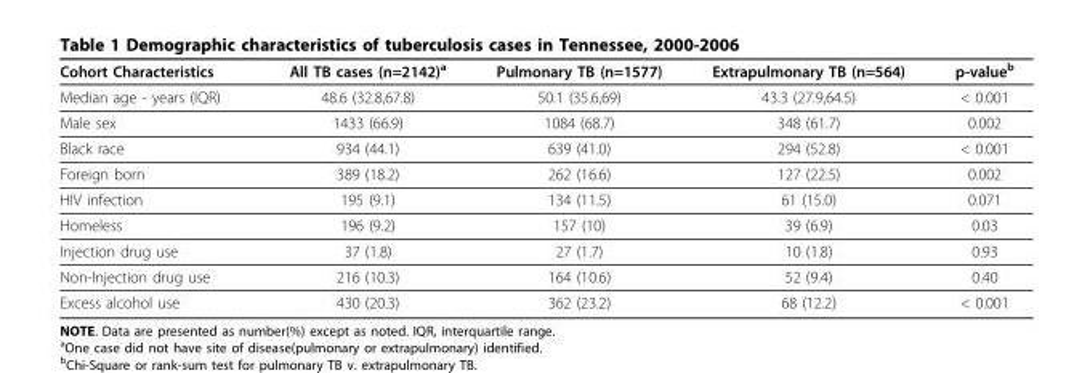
<table><thead><tr><td>Cohort Characteristics</td><td>All TB cases (n=2142)<sup>a</sup></td><td>Pulmonary TB (n=1577)</td><td>Extrapulmonary TB (n=564)</td><td>p-value<sup>b</sup></td></tr></thead><tbody><tr><td>Median age - years (IQR)</td><td>48.6 (32.8,67.8)</td><td>50.1 (35.6,69)</td><td>43.3 (27.9,64.5)</td><td>&lt; 0.001</td></tr><tr><td>Male sex</td><td>1433 (66.9)</td><td>1084 (68.7)</td><td>348 (61.7)</td><td>0.002</td></tr><tr><td>Black race</td><td>934 (44.1)</td><td>639 (41.0)</td><td>294 (52.8)</td><td>&lt; 0.001</td></tr><tr><td>Foreign born</td><td>389 (18.2)</td><td>262 (16.6)</td><td>127 (22.5)</td><td>0.002</td></tr><tr><td>HIV infection</td><td>195 (9.1)</td><td>134 (11.5)</td><td>61 (15.0)</td><td>0.071</td></tr><tr><td>Homeless</td><td>196 (9.2)</td><td>157 (10)</td><td>39 (6.9)</td><td>0.03</td></tr><tr><td>Injection drug use</td><td>37 (1.8)</td><td>27 (1.7)</td><td>10 (1.8)</td><td>0.93</td></tr><tr><td>Non-Injection drug use</td><td>216 (10.3)</td><td>164 (10.6)</td><td>52 (9.4)</td><td>0.40</td></tr><tr><td>Excess alcohol use</td><td>430 (20.3)</td><td>362 (23.2)</td><td>68 (12.2)</td><td>&lt; 0.001</td></tr></tbody></table>